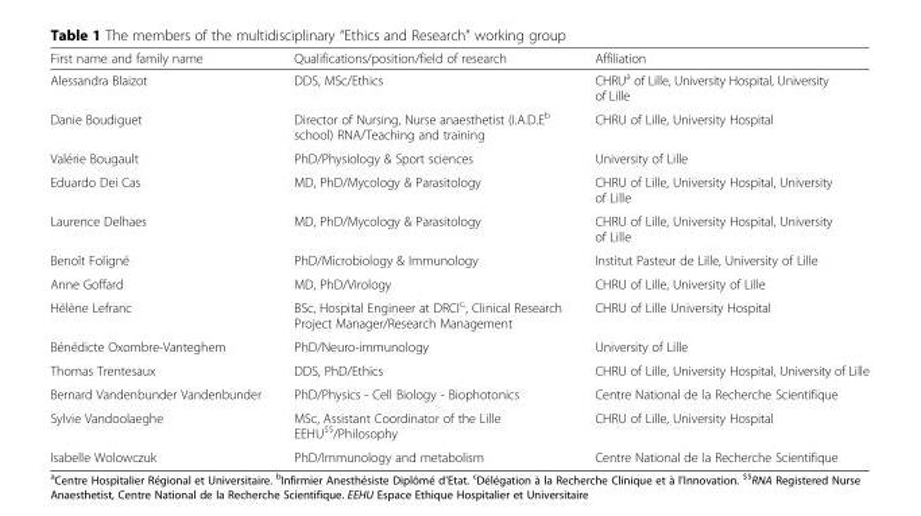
<table><thead><tr><td>First name and family name</td><td>Qualifications/position/field of research</td><td>Affiliation</td></tr></thead><tbody><tr><td>Alessandra Blaizot</td><td>DDS, MSc/Ethics</td><td>CHRU<sup>a</sup> of Lille, University Hospital, University of Lille</td></tr><tr><td>Danie Boudiguet</td><td>Director of Nursing, Nurse anaesthetist (I.A.D.E<sup>b</sup> school) RNA/Teaching and training</td><td>CHRU of Lille, University Hospital</td></tr><tr><td>Valérie Bougault</td><td>PhD/Physiology &amp; Sport sciences</td><td>University of Lille</td></tr><tr><td>Eduardo Dei Cas</td><td>MD, PhD/Mycology &amp; Parasitology</td><td>CHRU of Lille, University Hospital, University of Lille</td></tr><tr><td>Laurence Delhaes</td><td>MD, PhD/Mycology &amp; Parasitology</td><td>CHRU of Lille, University Hospital, University of Lille</td></tr><tr><td>Benoît Foligné</td><td>PhD/Microbiology &amp; Immunology</td><td>Institut Pasteur de Lille, University of Lille</td></tr><tr><td>Anne Goffard</td><td>MD, PhD/Virology</td><td>CHRU of Lille, University of Lille</td></tr><tr><td>Hélène Lefranc</td><td>BSc, Hospital Engineer at DRCI<sup>c,</sup>, Clinical Research Project Manager/Research Management</td><td>CHRU of Lille University Hospital</td></tr><tr><td>Bénédicte Oxombre-Vanteghem</td><td>PhD/Neuro-immunology</td><td>University of Lille</td></tr><tr><td>Thomas Trentesaux</td><td>DDS, PhD/Ethics</td><td>CHRU of Lille, University Hospital, University of Lille</td></tr><tr><td>Bernard Vandenbunder Vandenbunder</td><td>PhD/Physics - Cell Biology - Biophotonics</td><td>Centre National de la Recherche Scientifique</td></tr><tr><td>Sylvie Vandoolaeghe</td><td>MSc, Assistant Coordinator of the Lille EEHU<sup>$$</sup>/Philosophy</td><td>CHRU of Lille, University Hospital</td></tr><tr><td>Isabelle Wolowczuk</td><td>PhD/Immunology and metabolism</td><td>Centre National de la Recherche Scientifique</td></tr></tbody></table>